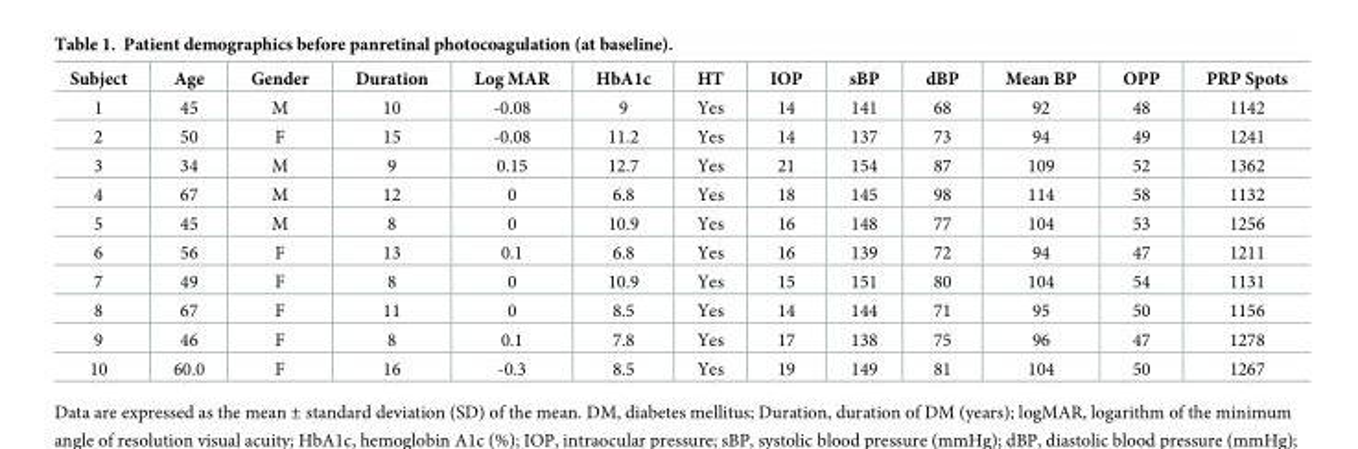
<table><thead><tr><td>Subject</td><td>Age</td><td>Gender</td><td>Duration</td><td>Log MAR</td><td>HbA1c</td><td>HT</td><td>IOP</td><td>sBP</td><td>dBP</td><td>Mean BP</td><td>OPP</td><td>PRP Spots</td></tr></thead><tbody><tr><td>1</td><td>45</td><td>M</td><td>10</td><td>-0.08</td><td>9</td><td>Yes</td><td>14</td><td>141</td><td>68</td><td>92</td><td>48</td><td>1142</td></tr><tr><td>2</td><td>50</td><td>F</td><td>15</td><td>-0.08</td><td>11.2</td><td>Yes</td><td>14</td><td>137</td><td>73</td><td>94</td><td>49</td><td>1241</td></tr><tr><td>3</td><td>34</td><td>M</td><td>9</td><td>0.15</td><td>12.7</td><td>Yes</td><td>21</td><td>154</td><td>87</td><td>109</td><td>52</td><td>1362</td></tr><tr><td>4</td><td>67</td><td>M</td><td>12</td><td>0</td><td>6.8</td><td>Yes</td><td>18</td><td>145</td><td>98</td><td>114</td><td>58</td><td>1132</td></tr><tr><td>5</td><td>45</td><td>M</td><td>8</td><td>0</td><td>10.9</td><td>Yes</td><td>16</td><td>148</td><td>77</td><td>104</td><td>53</td><td>1256</td></tr><tr><td>6</td><td>56</td><td>F</td><td>13</td><td>0.1</td><td>6.8</td><td>Yes</td><td>16</td><td>139</td><td>72</td><td>94</td><td>47</td><td>1211</td></tr><tr><td>7</td><td>49</td><td>F</td><td>8</td><td>0</td><td>10.9</td><td>Yes</td><td>15</td><td>151</td><td>80</td><td>104</td><td>54</td><td>1131</td></tr><tr><td>8</td><td>67</td><td>F</td><td>11</td><td>0</td><td>8.5</td><td>Yes</td><td>14</td><td>144</td><td>71</td><td>95</td><td>50</td><td>1156</td></tr><tr><td>9</td><td>46</td><td>F</td><td>8</td><td>0.1</td><td>7.8</td><td>Yes</td><td>17</td><td>138</td><td>75</td><td>96</td><td>47</td><td>1278</td></tr><tr><td>10</td><td>60.0</td><td>F</td><td>16</td><td>-0.3</td><td>8.5</td><td>Yes</td><td>19</td><td>149</td><td>81</td><td>104</td><td>50</td><td>1267</td></tr></tbody></table>